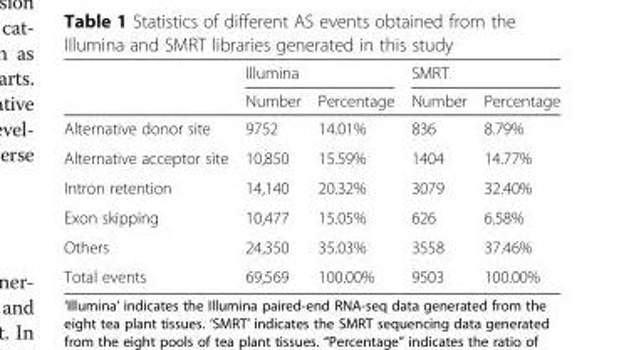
<table><thead><tr><td rowspan="2"></td><td colspan="2">Illumina</td><td colspan="2">SMRT</td></tr><tr><td>Number</td><td>Percentage</td><td>Number</td><td>Percentage</td></tr></thead><tbody><tr><td>Alternative donor site</td><td>9752</td><td>14.01%</td><td>836</td><td>8.79%</td></tr><tr><td>Alternative acceptor site</td><td>10,850</td><td>15.59%</td><td>1404</td><td>14.77%</td></tr><tr><td>Intron retention</td><td>14,140</td><td>20.32%</td><td>3079</td><td>32.40%</td></tr><tr><td>Exon skipping</td><td>10,477</td><td>15.05%</td><td>626</td><td>6.58%</td></tr><tr><td>Others</td><td>24,350</td><td>35.03%</td><td>3558</td><td>37.46%</td></tr><tr><td>Total events</td><td>69,569</td><td>100.00%</td><td>9503</td><td>100.00%</td></tr></tbody></table>